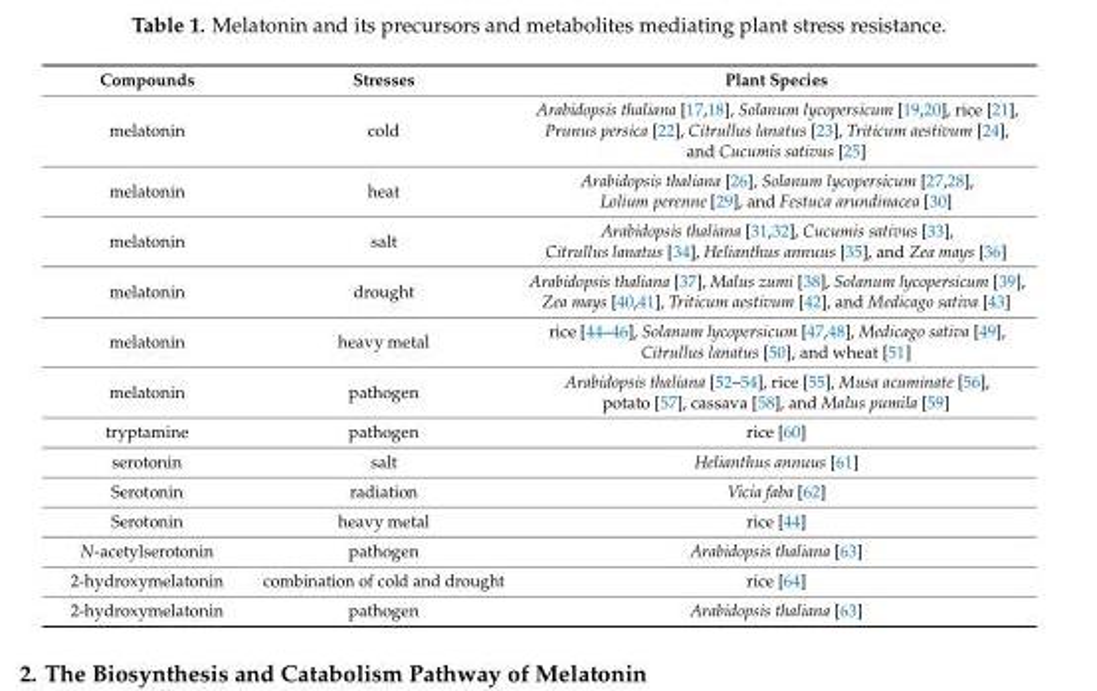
<table><thead><tr><td>Compounds</td><td>Stresses</td><td>Plant Species</td></tr></thead><tbody><tr><td>melatonin</td><td>cold</td><td>Arabidopsis thaliana [17,18], Solanum lycopersicum [19,20], rice [21], Prunus persica [22], Citrullus lanatus [23], Triticum aestivum [24], and Cucumis sativus [25]</td></tr><tr><td>melatonin</td><td>heat</td><td>Arabidopsis thaliana [26], Solanum lycopersicum [27,28], Lolium perenne [29], and Festuca arundinacea [30]</td></tr><tr><td>melatonin</td><td>salt</td><td>Arabidopsis thaliana [31,32], Cucumis sativus [33], Citrullus lanatus [34], Helianthus annuus [35], and Zea mays [36]</td></tr><tr><td>melatonin</td><td>drought</td><td>Arabidopsis thaliana [37], Malus zumi [38], Solanum lycopersicum [39], Zea mays [40,41], Triticum aestivum [42], and Medicago sativa [43]</td></tr><tr><td>melatonin</td><td>heavy metal</td><td>rice [44–46], Solanum lycopersicum [47,48], Medicago sativa [49], Citrullus lanatus [50], and wheat [51]</td></tr><tr><td>melatonin</td><td>pathogen</td><td>Arabidopsis thaliana [52–54], rice [55], Musa acuminate [56], potato [57], cassava [58], and Malus pumila [59]</td></tr><tr><td>tryptamine</td><td>pathogen</td><td>rice [60]</td></tr><tr><td>serotonin</td><td>salt</td><td>Helianthus annuus [61]</td></tr><tr><td>Serotonin</td><td>radiation</td><td>Vicia faba [62]</td></tr><tr><td>Serotonin</td><td>heavy metal</td><td>rice [44]</td></tr><tr><td>N-acetylserotonin</td><td>pathogen</td><td>Arabidopsis thaliana [63]</td></tr><tr><td>2-hydroxymelatonin</td><td>combination of cold and drought</td><td>rice [64]</td></tr><tr><td>2-hydroxymelatonin</td><td>pathogen</td><td>Arabidopsis thaliana [63]</td></tr></tbody></table>